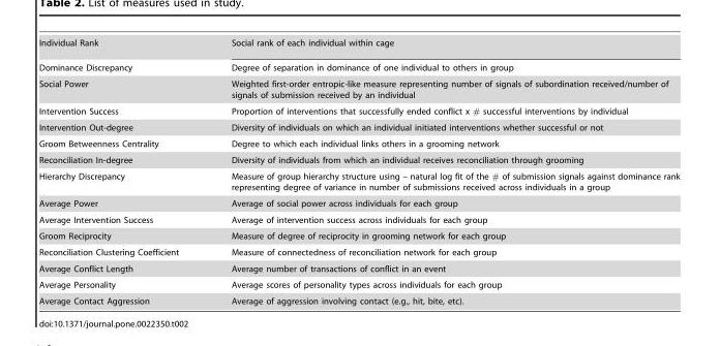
<table><tbody><tr><td>Individual Rank</td><td>Social rank of each individual within cage</td></tr><tr><td>Dominance Discrepancy</td><td>Degree of separation in dominance of one individual to others in group</td></tr><tr><td>Social Power</td><td>Weighted first-order entropic-like measure representing number of signals of subordination received/number of signals of submission received by an individual</td></tr><tr><td>Intervention Success</td><td>Proportion of interventions that successfully ended conflict x # successful interventions by individual</td></tr><tr><td>Intervention Out-degree</td><td>Diversity of individuals on which an individual initiated interventions whether successful or not</td></tr><tr><td>Groom Betweenness Centrality</td><td>Degree to which each individual links others in a grooming network</td></tr><tr><td>Reconciliation In-degree</td><td>Diversity of individuals from which an individual receives reconciliation through grooming</td></tr><tr><td>Hierarchy Discrepancy</td><td>Measure of group hierarchy structure using – natural log fit of the # of submission signals against dominance rank representing degree of variance in number of submissions received across individuals in a group</td></tr><tr><td>Average Power</td><td>Average of social power across individuals for each group</td></tr><tr><td>Average Intervention Success</td><td>Average of intervention success across individuals for each group</td></tr><tr><td>Groom Reciprocity</td><td>Measure of degree of reciprocity in grooming network for each group</td></tr><tr><td>Reconciliation Clustering Coefficient</td><td>Measure of connectedness of reconciliation network for each group</td></tr><tr><td>Average Conflict Length</td><td>Average number of transactions of conflict in an event</td></tr><tr><td>Average Personality</td><td>Average scores of personality types across individuals for each group</td></tr><tr><td>Average Contact Aggression</td><td>Average of aggression involving contact (e.g., hit, bite, etc).</td></tr></tbody></table>